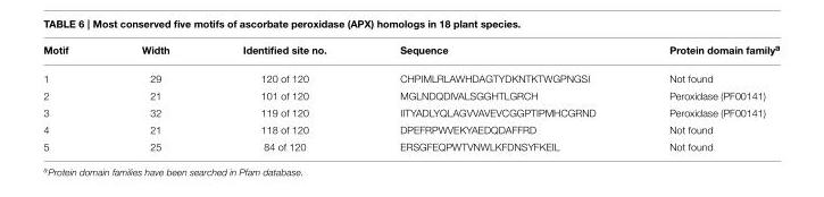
<table><thead><tr><td>Motif</td><td>Width</td><td>Identified site no.</td><td>Sequence</td><td>Protein domain family<sup>a</sup></td></tr></thead><tbody><tr><td>1</td><td>29</td><td>120 of 120</td><td>CHPIMLRLAWHDAGTYDKNTKTWGPNGSI</td><td>Not found</td></tr><tr><td>2</td><td>21</td><td>101 of 120</td><td>MGLNDQDIVALSGGHTLGRCH</td><td>Peroxidase (PF00141)</td></tr><tr><td>3</td><td>32</td><td>119 of 120</td><td>IITYADLYQLAGVVAVEVCGGPTIPMHCGRND</td><td>Peroxidase (PF00141)</td></tr><tr><td>4</td><td>21</td><td>118 of 120</td><td>DPEFRPWVEKYAEDQDAFFRD</td><td>Not found</td></tr><tr><td>5</td><td>25</td><td>84 of 120</td><td>ERSGFEQPWTVNWLKFDNSYFKEIL</td><td>Not found</td></tr></tbody></table>